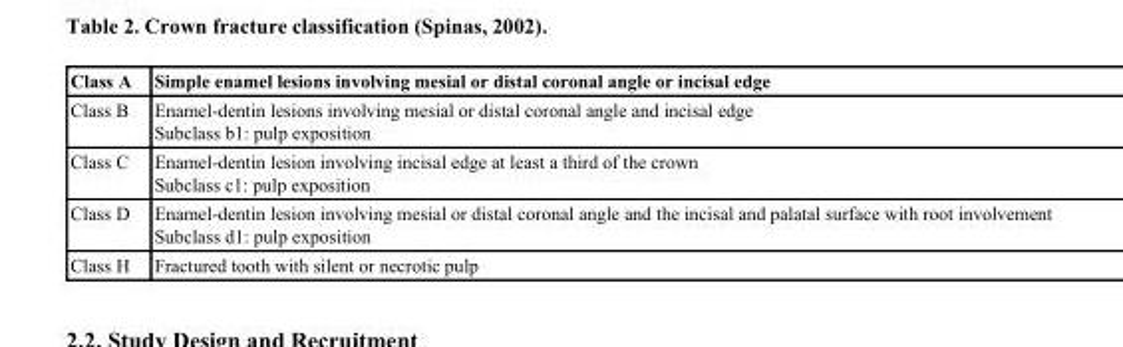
<table><thead><tr><td>Class A</td><td>Simple enamel lesions involving mesial or distal coronal angle or incisal edge</td></tr></thead><tbody><tr><td>Class B</td><td>Enamel-dentin lesions involving mesial or distal coronal angle and incisal edge Subclass b1: pulp exposition</td></tr><tr><td>Class C</td><td>Enamel-dentin lesion involving incisal edge at least a third of the crown Subclass c1: pulp exposition</td></tr><tr><td>Class D</td><td>Enamel-dentin lesion involving mesial or distal coronal angle and the incisal and palatal surface with root involvement Subclass d1: pulp exposition</td></tr><tr><td>Class H</td><td>Fractured tooth with silent or necrotic pulp</td></tr></tbody></table>